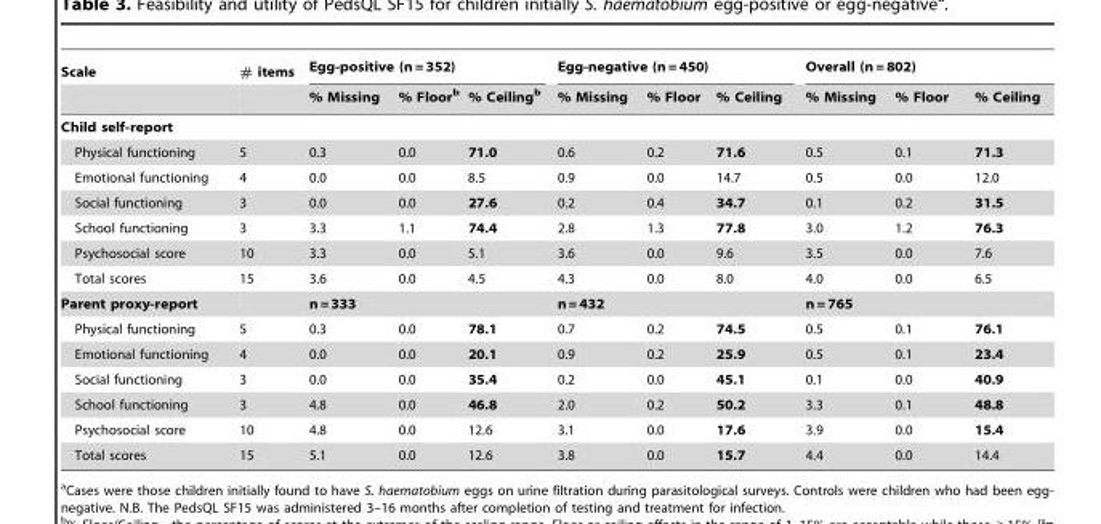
<table><thead><tr><td rowspan="2">Scale</td><td rowspan="2"># items</td><td colspan="3">Egg-positive (n = 352)</td><td colspan="3">Egg-negative (n = 450)</td><td colspan="3">Overall (n = 802)</td></tr><tr><td>% Missing</td><td>% Floor<sup>b</sup></td><td>% Ceiling<sup>b</sup></td><td>% Missing</td><td>% Floor</td><td>% Ceiling</td><td>% Missing</td><td>% Floor</td><td>% Ceiling</td></tr></thead><tbody><tr><td colspan="11">Child self-report</td></tr><tr><td>Physical functioning</td><td>5</td><td>0.3</td><td>0.0</td><td>71.0</td><td>0.6</td><td>0.2</td><td>71.6</td><td>0.5</td><td>0.1</td><td>71.3</td></tr><tr><td>Emotional functioning</td><td>4</td><td>0.0</td><td>0.0</td><td>8.5</td><td>0.9</td><td>0.0</td><td>14.7</td><td>0.5</td><td>0.0</td><td>12.0</td></tr><tr><td>Social functioning</td><td>3</td><td>0.0</td><td>0.0</td><td>27.6</td><td>0.2</td><td>0.4</td><td>34.7</td><td>0.1</td><td>0.2</td><td>31.5</td></tr><tr><td>School functioning</td><td>3</td><td>3.3</td><td>1.1</td><td>74.4</td><td>2.8</td><td>1.3</td><td>77.8</td><td>3.0</td><td>1.2</td><td>76.3</td></tr><tr><td>Psychosocial score</td><td>10</td><td>3.3</td><td>0.0</td><td>5.1</td><td>3.6</td><td>0.0</td><td>9.6</td><td>3.5</td><td>0.0</td><td>7.6</td></tr><tr><td>Total scores</td><td>15</td><td>3.6</td><td>0.0</td><td>4.5</td><td>4.3</td><td>0.0</td><td>8.0</td><td>4.0</td><td>0.0</td><td>6.5</td></tr><tr><td>Parent proxy-report</td><td></td><td colspan="3">n = 333</td><td colspan="3">n = 432</td><td colspan="3">n = 765</td></tr><tr><td>Physical functioning</td><td>5</td><td>0.3</td><td>0.0</td><td>78.1</td><td>0.7</td><td>0.2</td><td>74.5</td><td>0.5</td><td>0.1</td><td>76.1</td></tr><tr><td>Emotional functioning</td><td>4</td><td>0.0</td><td>0.0</td><td>20.1</td><td>0.9</td><td>0.2</td><td>25.9</td><td>0.5</td><td>0.1</td><td>23.4</td></tr><tr><td>Social functioning</td><td>3</td><td>0.0</td><td>0.0</td><td>35.4</td><td>0.2</td><td>0.0</td><td>45.1</td><td>0.1</td><td>0.0</td><td>40.9</td></tr><tr><td>School functioning</td><td>3</td><td>4.8</td><td>0.0</td><td>46.8</td><td>2.0</td><td>0.2</td><td>50.2</td><td>3.3</td><td>0.1</td><td>48.8</td></tr><tr><td>Psychosocial score</td><td>10</td><td>4.8</td><td>0.0</td><td>12.6</td><td>3.1</td><td>0.0</td><td>17.6</td><td>3.9</td><td>0.0</td><td>15.4</td></tr><tr><td>Total scores</td><td>15</td><td>5.1</td><td>0.0</td><td>12.6</td><td>3.8</td><td>0.0</td><td>15.7</td><td>4.4</td><td>0.0</td><td>14.4</td></tr></tbody></table>